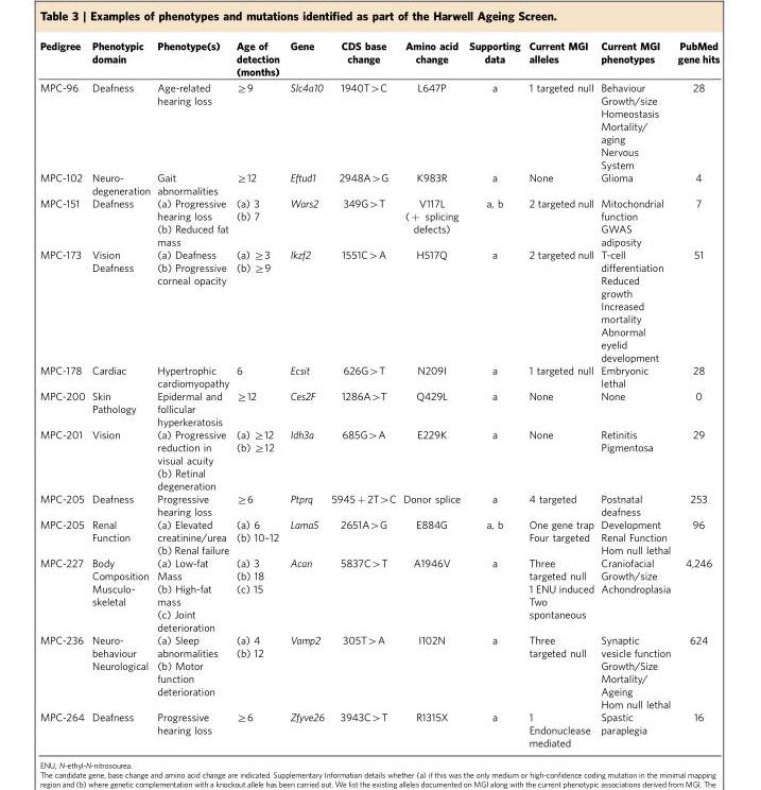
<table><thead><tr><td>Pedigree</td><td>Phenotypic domain</td><td>Phenotype(s)</td><td>Age of detection (months)</td><td>Gene</td><td>CDS base change</td><td>Amino acid change</td><td>Supporting data</td><td>Current MGI alleles</td><td>Current MGI phenotypes</td><td>PubMed gene hits</td></tr></thead><tbody><tr><td>MPC-96</td><td>Deafness</td><td>Age-related hearing loss</td><td>⩾9</td><td>Slc4a10</td><td>1940T&gt;C</td><td>L647P</td><td>a</td><td>1 targeted null</td><td>Behaviour Growth/size Homeostasis Mortality/ aging Nervous System</td><td>28</td></tr><tr><td>MPC-102</td><td>Neuro- degeneration</td><td>Gait abnormalities</td><td>⩾12</td><td>Eftud1</td><td>2948A&gt;G</td><td>K983R</td><td>a</td><td>None</td><td>Glioma</td><td>4</td></tr><tr><td>MPC-151</td><td>Deafness</td><td>(a) Progressive hearing loss (b) Reduced fat mass</td><td>(a) 3 (b) 7</td><td>Wars2</td><td>349G&gt;T</td><td>V117L ( + splicing defects)</td><td>a, b</td><td>2 targeted null</td><td>Mitochondrial function GWAS adiposity</td><td>7</td></tr><tr><td>MPC-173</td><td>Vision Deafness</td><td>(a) Deafness (b) Progressive corneal opacity</td><td>(a) ⩾3 (b) ⩾9</td><td>Ikzf2</td><td>1551C&gt;A</td><td>H517Q</td><td>a</td><td>2 targeted null</td><td>T-cell differentiation Reduced growth Increased mortality Abnormal eyelid development</td><td>51</td></tr><tr><td>MPC-178</td><td>Cardiac</td><td>Hypertrophic cardiomyopathy</td><td>6</td><td>Ecsit</td><td>626G&gt;T</td><td>N209I</td><td>a</td><td>1 targeted null</td><td>Embryonic lethal</td><td>28</td></tr><tr><td>MPC-200</td><td>Skin Pathology</td><td>Epidermal and follicular hyperkeratosis</td><td>⩾12</td><td>Ces2F</td><td>1286A&gt;T</td><td>Q429L</td><td>a</td><td>None</td><td>None</td><td>0</td></tr><tr><td>MPC-201</td><td>Vision</td><td>(a) Progressive reduction in visual acuity (b) Retinal degeneration</td><td>(a) ⩾12 (b) ⩾12</td><td>Idh3a</td><td>685G&gt;A</td><td>E229K</td><td>a</td><td>None</td><td>Retinitis Pigmentosa</td><td>29</td></tr><tr><td>MPC-205</td><td>Deafness</td><td>Progressive hearing loss</td><td>⩾6</td><td>Ptprq</td><td>5945 + 2T&gt;C</td><td>Donor splice</td><td>a</td><td>4 targeted</td><td>Postnatal deafness</td><td>253</td></tr><tr><td>MPC-205</td><td>Renal Function</td><td>(a) Elevated creatinine/urea (b) Renal failure</td><td>(a) 6 (b) 10–12</td><td>Lama5</td><td>2651A&gt;G</td><td>E884G</td><td>a, b</td><td>One gene trap Four targeted</td><td>Development Renal Function Hom null lethal</td><td>96</td></tr><tr><td>MPC-227</td><td>Body Composition Musculo- skeletal</td><td>(a) Low-fat Mass (b) High-fat mass (c) Joint deterioration</td><td>(a) 3 (b) 18 (c) 15</td><td>Acan</td><td>5837C&gt;T</td><td>A1946V</td><td>a</td><td>Three targeted null 1 ENU induced Two spontaneous</td><td>Craniofacial Growth/size Achondroplasia</td><td>4,246</td></tr><tr><td>MPC-236</td><td>Neuro- behaviour Neurological</td><td>(a) Sleep abnormalities (b) Motor function deterioration</td><td>(a) 4 (b) 12</td><td>Vamp2</td><td>305T&gt;A</td><td>I102N</td><td>a</td><td>Three targeted null</td><td>Synaptic vesicle function Growth/Size Mortality/ Ageing Hom null lethal</td><td>624</td></tr><tr><td>MPC-264</td><td>Deafness</td><td>Progressive hearing loss</td><td>⩾6</td><td>Zfyve26</td><td>3943C&gt;T</td><td>R1315X</td><td>a</td><td>1 Endonuclease mediated</td><td>Spastic paraplegia</td><td>16</td></tr></tbody></table>